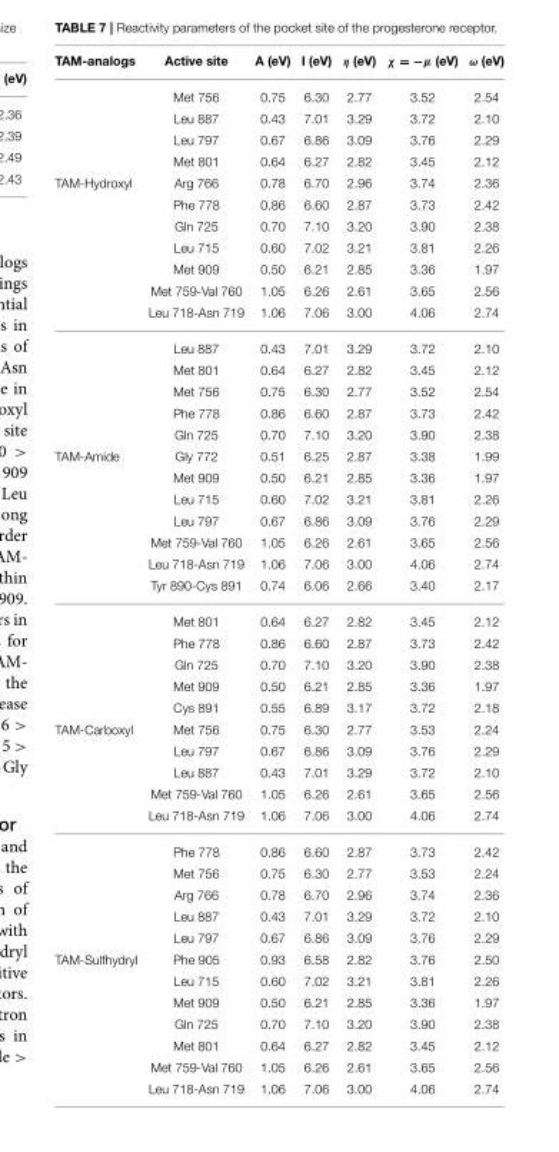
<table><thead><tr><td>TAM-analogs</td><td>Active site</td><td>A (eV)</td><td>I (eV)</td><td>η (eV)</td><td>χ = −µ (eV)</td><td>ω (eV)</td></tr></thead><tbody><tr><td></td><td>Met 756</td><td>0.75</td><td>6.30</td><td>2.77</td><td>3.52</td><td>2.54</td></tr><tr><td></td><td>Leu 887</td><td>0.43</td><td>7.01</td><td>3.29</td><td>3.72</td><td>2.10</td></tr><tr><td></td><td>Leu 797</td><td>0.67</td><td>6.86</td><td>3.09</td><td>3.76</td><td>2.29</td></tr><tr><td></td><td>Met 801</td><td>0.64</td><td>6.27</td><td>2.82</td><td>3.45</td><td>2.12</td></tr><tr><td rowspan="12">TAM-Hydroxyl</td><td>Arg 766</td><td>0.78</td><td>6.70</td><td>2.96</td><td>3.74</td><td>2.36</td></tr><tr><td>Phe 778</td><td>0.86</td><td>6.60</td><td>2.87</td><td>3.73</td><td>2.42</td></tr><tr><td>Gln 725</td><td>0.70</td><td>7.10</td><td>3.20</td><td>3.90</td><td>2.38</td></tr><tr><td>Leu 715</td><td>0.60</td><td>7.02</td><td>3.21</td><td>3.81</td><td>2.26</td></tr><tr><td>Met 909</td><td>0.50</td><td>6.21</td><td>2.85</td><td>3.36</td><td>1.97</td></tr><tr><td>Met 759-Val 760</td><td>1.05</td><td>6.26</td><td>2.61</td><td>3.65</td><td>2.56</td></tr><tr><td>Leu 718-Asn 719</td><td>1.06</td><td>7.06</td><td>3.00</td><td>4.06</td><td>2.74</td></tr><tr><td>Leu 887</td><td>0.43</td><td>7.01</td><td>3.29</td><td>3.72</td><td>2.10</td></tr><tr><td>Met 801</td><td>0.64</td><td>6.27</td><td>2.82</td><td>3.45</td><td>2.12</td></tr><tr><td>Met 756</td><td>0.75</td><td>6.30</td><td>2.77</td><td>3.52</td><td>2.54</td></tr><tr><td>Phe 778</td><td>0.86</td><td>6.60</td><td>2.87</td><td>3.73</td><td>2.42</td></tr><tr><td>Gln 725</td><td>0.70</td><td>7.10</td><td>3.20</td><td>3.90</td><td>2.38</td></tr><tr><td rowspan="12">TAM-Amide</td><td>Gly 772</td><td>0.51</td><td>6.25</td><td>2.87</td><td>3.38</td><td>1.99</td></tr><tr><td>Met 909</td><td>0.50</td><td>6.21</td><td>2.85</td><td>3.36</td><td>1.97</td></tr><tr><td>Leu 715</td><td>0.60</td><td>7.02</td><td>3.21</td><td>3.81</td><td>2.26</td></tr><tr><td>Leu 797</td><td>0.67</td><td>6.86</td><td>3.09</td><td>3.76</td><td>2.29</td></tr><tr><td>Met 759-Val 760</td><td>1.05</td><td>6.26</td><td>2.61</td><td>3.65</td><td>2.56</td></tr><tr><td>Leu 718-Asn 719</td><td>1.06</td><td>7.06</td><td>3.00</td><td>4.06</td><td>2.74</td></tr><tr><td>Tyr 890-Cys 891</td><td>0.74</td><td>6.06</td><td>2.66</td><td>3.40</td><td>2.17</td></tr><tr><td>Met 801</td><td>0.64</td><td>6.27</td><td>2.82</td><td>3.45</td><td>2.12</td></tr><tr><td>Phe 778</td><td>0.86</td><td>6.60</td><td>2.87</td><td>3.73</td><td>2.42</td></tr><tr><td>Gln 725</td><td>0.70</td><td>7.10</td><td>3.20</td><td>3.90</td><td>2.38</td></tr><tr><td>Met 909</td><td>0.50</td><td>6.21</td><td>2.85</td><td>3.36</td><td>1.97</td></tr><tr><td>Cys 891</td><td>0.55</td><td>6.89</td><td>3.17</td><td>3.72</td><td>2.18</td></tr><tr><td rowspan="10">TAM-Carboxyl</td><td>Met 756</td><td>0.75</td><td>6.30</td><td>2.77</td><td>3.53</td><td>2.24</td></tr><tr><td>Leu 797</td><td>0.67</td><td>6.86</td><td>3.09</td><td>3.76</td><td>2.29</td></tr><tr><td>Leu 887</td><td>0.43</td><td>7.01</td><td>3.29</td><td>3.72</td><td>2.10</td></tr><tr><td>Met 759-Val 760</td><td>1.05</td><td>6.26</td><td>2.61</td><td>3.65</td><td>2.56</td></tr><tr><td>Leu 718-Asn 719</td><td>1.06</td><td>7.06</td><td>3.00</td><td>4.06</td><td>2.74</td></tr><tr><td>Phe 778</td><td>0.86</td><td>6.60</td><td>2.87</td><td>3.73</td><td>2.42</td></tr><tr><td>Met 756</td><td>0.75</td><td>6.30</td><td>2.77</td><td>3.53</td><td>2.24</td></tr><tr><td>Arg 766</td><td>0.78</td><td>6.70</td><td>2.96</td><td>3.74</td><td>2.36</td></tr><tr><td>Leu 887</td><td>0.43</td><td>7.01</td><td>3.29</td><td>3.72</td><td>2.10</td></tr><tr><td>Leu 797</td><td>0.67</td><td>6.86</td><td>3.09</td><td>3.76</td><td>2.29</td></tr><tr><td rowspan="7">TAM-Sulfhydryl</td><td>Phe 905</td><td>0.93</td><td>6.58</td><td>2.82</td><td>3.76</td><td>2.50</td></tr><tr><td>Leu 715</td><td>0.60</td><td>7.02</td><td>3.21</td><td>3.81</td><td>2.26</td></tr><tr><td>Met 909</td><td>0.50</td><td>6.21</td><td>2.85</td><td>3.36</td><td>1.97</td></tr><tr><td>Gln 725</td><td>0.70</td><td>7.10</td><td>3.20</td><td>3.90</td><td>2.38</td></tr><tr><td>Met 801</td><td>0.64</td><td>6.27</td><td>2.82</td><td>3.45</td><td>2.12</td></tr><tr><td>Met 759-Val 760</td><td>1.05</td><td>6.26</td><td>2.61</td><td>3.65</td><td>2.56</td></tr><tr><td>Leu 718-Asn 719</td><td>1.06</td><td>7.06</td><td>3.00</td><td>4.06</td><td>2.74</td></tr></tbody></table>